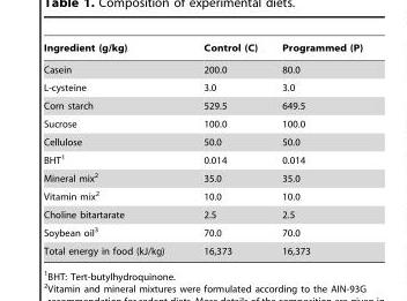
<table><thead><tr><td>Ingredient (g/kg)</td><td>Control (C)</td><td>Programmed (P)</td></tr></thead><tbody><tr><td>Casein</td><td>200.0</td><td>80.0</td></tr><tr><td>L-cysteine</td><td>3.0</td><td>3.0</td></tr><tr><td>Corn starch</td><td>529.5</td><td>649.5</td></tr><tr><td>Sucrose</td><td>100.0</td><td>100.0</td></tr><tr><td>Cellulose</td><td>50.0</td><td>50.0</td></tr><tr><td>BHT<sup>1</sup></td><td>0.014</td><td>0.014</td></tr><tr><td>Mineral mix<sup>2</sup></td><td>35.0</td><td>35.0</td></tr><tr><td>Vitamin mix<sup>2</sup></td><td>10.0</td><td>10.0</td></tr><tr><td>Choline bitartarate</td><td>2.5</td><td>2.5</td></tr><tr><td>Soybean oil<sup>3</sup></td><td>70.0</td><td>70.0</td></tr><tr><td>Total energy in food (kJ/kg)</td><td>16,373</td><td>16,373</td></tr></tbody></table>